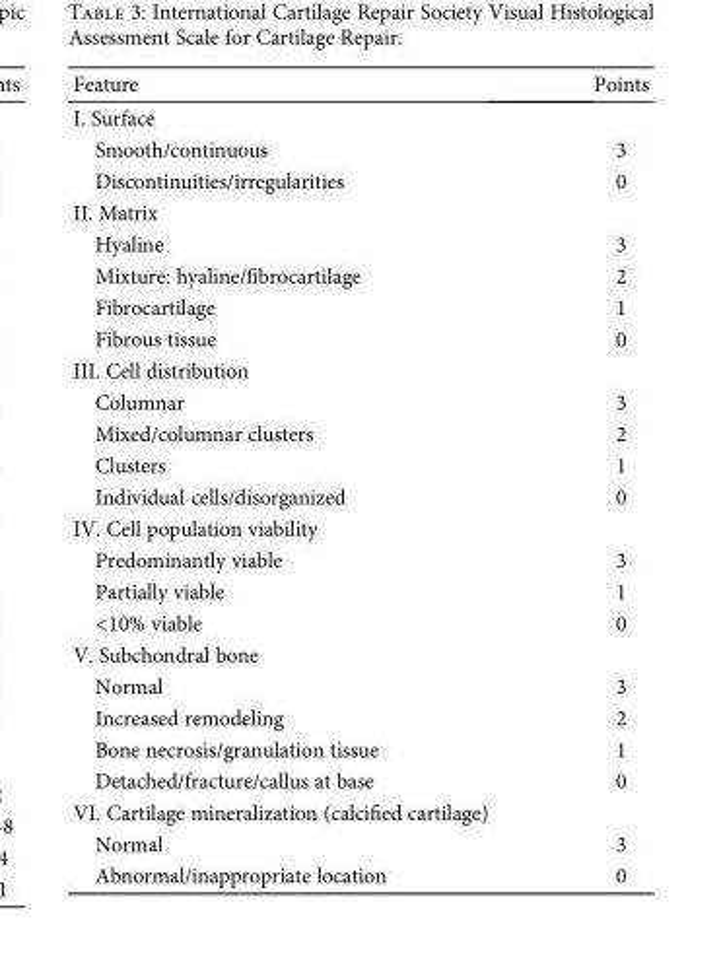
<table><thead><tr><td>Feature</td><td>Points</td></tr></thead><tbody><tr><td colspan="2">I. Surface</td></tr><tr><td>Smooth/continuous</td><td>3</td></tr><tr><td>Discontinuities/irregularities</td><td>0</td></tr><tr><td colspan="2">II. Matrix</td></tr><tr><td>Hyaline</td><td>3</td></tr><tr><td>Mixture: hyaline/fibrocartilage</td><td>2</td></tr><tr><td>Fibrocartilage</td><td>1</td></tr><tr><td>Fibrous tissue</td><td>0</td></tr><tr><td colspan="2">III. Cell distribution</td></tr><tr><td>Columnar</td><td>3</td></tr><tr><td>Mixed/columnar clusters</td><td>2</td></tr><tr><td>Clusters</td><td>1</td></tr><tr><td>Individual cells/disorganized</td><td>0</td></tr><tr><td colspan="2">IV. Cell population viability</td></tr><tr><td>Predominantly viable</td><td>3</td></tr><tr><td>Partially viable</td><td>1</td></tr><tr><td>&lt;10% viable</td><td>0</td></tr><tr><td colspan="2">V. Subchondral bone</td></tr><tr><td>Normal</td><td>3</td></tr><tr><td>Increased remodeling</td><td>2</td></tr><tr><td>Bone necrosis/granulation tissue</td><td>1</td></tr><tr><td>Detached/fracture/callus at base</td><td>0</td></tr><tr><td colspan="2">VI. Cartilage mineralization (calcified cartilage)</td></tr><tr><td>Normal</td><td>3</td></tr><tr><td>Abnormal/inappropriate location</td><td>0</td></tr></tbody></table>